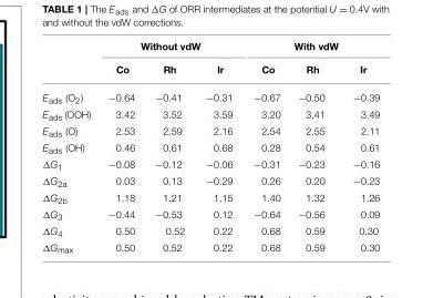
<table><thead><tr><td rowspan="2"></td><td colspan="3">Without vdW</td><td colspan="3">With vdW</td></tr><tr><td>Co</td><td>Rh</td><td>Ir</td><td>Co</td><td>Rh</td><td>Ir</td></tr></thead><tbody><tr><td>E<sub>ads</sub> (O<sub>2</sub>)</td><td>−0.64</td><td>−0.41</td><td>−0.31</td><td>−0.67</td><td>−0.50</td><td>−0.39</td></tr><tr><td>E<sub>ads</sub> (OOH)</td><td>3.42</td><td>3.52</td><td>3.59</td><td>3.20</td><td>3.41</td><td>3.49</td></tr><tr><td>E<sub>ads</sub> (O)</td><td>2.53</td><td>2.59</td><td>2.16</td><td>2.54</td><td>2.55</td><td>2.11</td></tr><tr><td>E<sub>ads</sub> (OH)</td><td>0.46</td><td>0.61</td><td>0.68</td><td>0.28</td><td>0.54</td><td>0.61</td></tr><tr><td>ΔG<sub>1</sub></td><td>−0.08</td><td>−0.12</td><td>−0.06</td><td>−0.31</td><td>−0.23</td><td>−0.16</td></tr><tr><td>ΔG<sub>2a</sub></td><td>0.03</td><td>0.13</td><td>−0.29</td><td>0.26</td><td>0.20</td><td>−0.23</td></tr><tr><td>ΔG<sub>2b</sub></td><td>1.18</td><td>1.21</td><td>1.15</td><td>1.40</td><td>1.32</td><td>1.26</td></tr><tr><td>ΔG<sub>3</sub></td><td>−0.44</td><td>−0.53</td><td>0.12</td><td>−0.64</td><td>−0.56</td><td>0.09</td></tr><tr><td>ΔG<sub>4</sub></td><td>0.50</td><td>0.52</td><td>0.22</td><td>0.68</td><td>0.59</td><td>0.30</td></tr><tr><td>ΔG<sub>max</sub></td><td>0.50</td><td>0.52</td><td>0.22</td><td>0.68</td><td>0.59</td><td>0.30</td></tr></tbody></table>